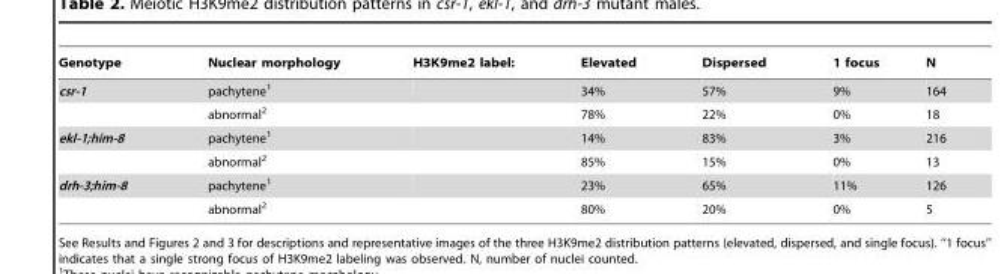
<table><thead><tr><td>Genotype</td><td>Nuclear morphology</td><td>H3K9me2 label:</td><td>Elevated</td><td>Dispersed</td><td>1 focus</td><td>N</td></tr></thead><tbody><tr><td rowspan="2">csr-1</td><td>pachytene<sup>1</sup></td><td></td><td>34%</td><td>57%</td><td>9%</td><td>164</td></tr><tr><td>abnormal<sup>2</sup></td><td></td><td>78%</td><td>22%</td><td>0%</td><td>18</td></tr><tr><td rowspan="2">ekl-1;him-8</td><td>pachytene<sup>1</sup></td><td></td><td>14%</td><td>83%</td><td>3%</td><td>216</td></tr><tr><td>abnormal<sup>2</sup></td><td></td><td>85%</td><td>15%</td><td>0%</td><td>13</td></tr><tr><td rowspan="2">drh-3;him-8</td><td>pachytene<sup>1</sup></td><td></td><td>23%</td><td>65%</td><td>11%</td><td>126</td></tr><tr><td>abnormal<sup>2</sup></td><td></td><td>80%</td><td>20%</td><td>0%</td><td>5</td></tr></tbody></table>